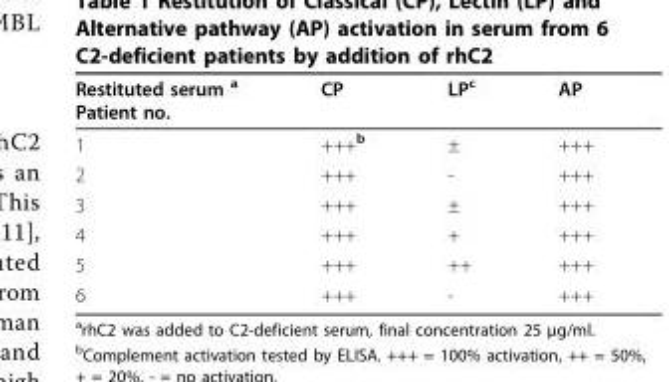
<table><thead><tr><td>Restituted serum <sup>a</sup> Patient no.</td><td>CP</td><td>LP<sup>c</sup></td><td>AP</td></tr></thead><tbody><tr><td>1</td><td>+++<sup>b</sup></td><td>±</td><td>+++</td></tr><tr><td>2</td><td>+++</td><td>-</td><td>+++</td></tr><tr><td>3</td><td>+++</td><td>±</td><td>+++</td></tr><tr><td>4</td><td>+++</td><td>+</td><td>+++</td></tr><tr><td>5</td><td>+++</td><td>++</td><td>+++</td></tr><tr><td>6</td><td>+++</td><td>-</td><td>+++</td></tr></tbody></table>